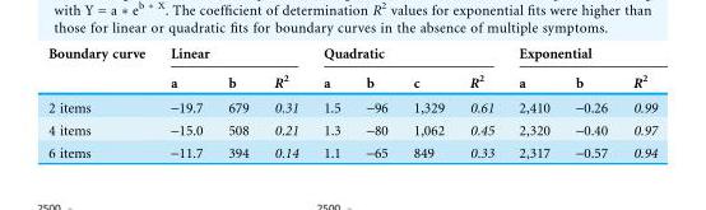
<table><thead><tr><td rowspan="2">Boundary curve</td><td colspan="3">Linear</td><td colspan="4">Quadratic</td><td colspan="3">Exponential</td></tr><tr><td>a</td><td>b</td><td>R<sup>2</sup></td><td>a</td><td>b</td><td>c</td><td>R<sup>2</sup></td><td>a</td><td>b</td><td>R<sup>2</sup></td></tr></thead><tbody><tr><td>2 items</td><td>-19.7</td><td>679</td><td>0.31</td><td>1.5</td><td>-96</td><td>1,329</td><td>0.61</td><td>2,410</td><td>-0.26</td><td>0.99</td></tr><tr><td>4 items</td><td>-15.0</td><td>508</td><td>0.21</td><td>1.3</td><td>-80</td><td>1,062</td><td>0.45</td><td>2,320</td><td>-0.40</td><td>0.97</td></tr><tr><td>6 items</td><td>-11.7</td><td>394</td><td>0.14</td><td>1.1</td><td>-65</td><td>849</td><td>0.33</td><td>2,317</td><td>-0.57</td><td>0.94</td></tr></tbody></table>